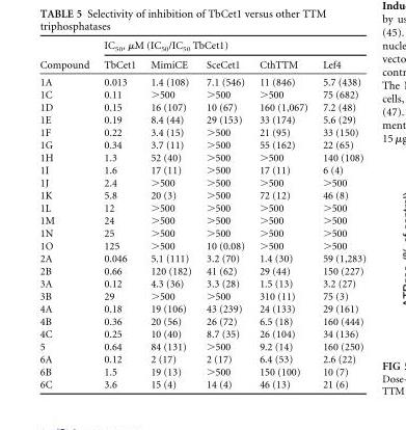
<table><thead><tr><td rowspan="2">Compound</td><td colspan="5">IC<sub>50</sub>, µM (IC<sub>50</sub>/IC<sub>50</sub> TbCet1)</td></tr><tr><td>TbCet1</td><td>MimiCE</td><td>SceCet1</td><td>CthTTM</td><td>Lef4</td></tr></thead><tbody><tr><td>1A</td><td>0.013</td><td>1.4 (108)</td><td>7.1 (546)</td><td>11 (846)</td><td>5.7 (438)</td></tr><tr><td>1C</td><td>0.11</td><td>&gt;500</td><td>&gt;500</td><td>&gt;500</td><td>75 (682)</td></tr><tr><td>1D</td><td>0.15</td><td>16 (107)</td><td>10 (67)</td><td>160 (1,067)</td><td>7.2 (48)</td></tr><tr><td>1E</td><td>0.19</td><td>8.4 (44)</td><td>29 (153)</td><td>33 (174)</td><td>5.6 (29)</td></tr><tr><td>1F</td><td>0.22</td><td>3.4 (15)</td><td>&gt;500</td><td>21 (95)</td><td>33 (150)</td></tr><tr><td>1G</td><td>0.34</td><td>3.7 (11)</td><td>&gt;500</td><td>55 (162)</td><td>22 (65)</td></tr><tr><td>1H</td><td>1.3</td><td>52 (40)</td><td>&gt;500</td><td>&gt;500</td><td>140 (108)</td></tr><tr><td>1I</td><td>1.6</td><td>17 (11)</td><td>&gt;500</td><td>17 (11)</td><td>6 (4)</td></tr><tr><td>1J</td><td>2.4</td><td>&gt;500</td><td>&gt;500</td><td>&gt;500</td><td>&gt;500</td></tr><tr><td>1K</td><td>5.8</td><td>20 (3)</td><td>&gt;500</td><td>72 (12)</td><td>46 (8)</td></tr><tr><td>1L</td><td>12</td><td>&gt;500</td><td>&gt;500</td><td>&gt;500</td><td>&gt;500</td></tr><tr><td>1M</td><td>24</td><td>&gt;500</td><td>&gt;500</td><td>&gt;500</td><td>&gt;500</td></tr><tr><td>1N</td><td>25</td><td>&gt;500</td><td>&gt;500</td><td>&gt;500</td><td>&gt;500</td></tr><tr><td>1O</td><td>125</td><td>&gt;500</td><td>10 (0.08)</td><td>&gt;500</td><td>&gt;500</td></tr><tr><td>2A</td><td>0.046</td><td>5.1 (111)</td><td>3.2 (70)</td><td>1.4 (30)</td><td>59 (1,283)</td></tr><tr><td>2B</td><td>0.66</td><td>120 (182)</td><td>41 (62)</td><td>29 (44)</td><td>150 (227)</td></tr><tr><td>3A</td><td>0.12</td><td>4.3 (36)</td><td>3.3 (28)</td><td>1.5 (13)</td><td>3.2 (27)</td></tr><tr><td>3B</td><td>29</td><td>&gt;500</td><td>&gt;500</td><td>310 (11)</td><td>75 (3)</td></tr><tr><td>4A</td><td>0.18</td><td>19 (106)</td><td>43 (239)</td><td>24 (133)</td><td>29 (161)</td></tr><tr><td>4B</td><td>0.36</td><td>20 (56)</td><td>26 (72)</td><td>6.5 (18)</td><td>160 (444)</td></tr><tr><td>4C</td><td>0.25</td><td>10 (40)</td><td>8.7 (35)</td><td>26 (104)</td><td>34 (136)</td></tr><tr><td>5</td><td>0.64</td><td>84 (131)</td><td>&gt;500</td><td>9.2 (14)</td><td>160 (250)</td></tr><tr><td>6A</td><td>0.12</td><td>2 (17)</td><td>2 (17)</td><td>6.4 (53)</td><td>2.6 (22)</td></tr><tr><td>6B</td><td>1.5</td><td>19 (13)</td><td>&gt;500</td><td>150 (100)</td><td>10 (7)</td></tr><tr><td>6C</td><td>3.6</td><td>15 (4)</td><td>14 (4)</td><td>46 (13)</td><td>21 (6)</td></tr></tbody></table>